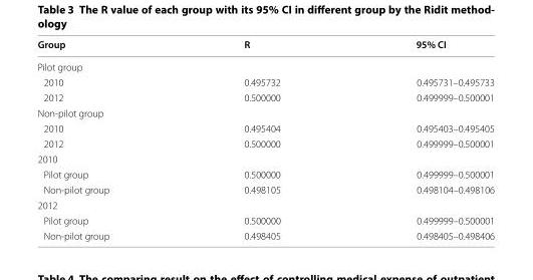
<table><thead><tr><td>Group</td><td>R</td><td>95% CI</td></tr></thead><tbody><tr><td colspan="3">Pilot group</td></tr><tr><td>2010</td><td>0.495732</td><td>0.495731–0.495733</td></tr><tr><td>2012</td><td>0.500000</td><td>0.499999–0.500001</td></tr><tr><td colspan="3">Non‑pilot group</td></tr><tr><td>2010</td><td>0.495404</td><td>0.495403–0.495405</td></tr><tr><td>2012</td><td>0.500000</td><td>0.499999–0.500001</td></tr><tr><td colspan="3">2010</td></tr><tr><td>Pilot group</td><td>0.500000</td><td>0.499999–0.500001</td></tr><tr><td>Non‑pilot group</td><td>0.498105</td><td>0.498104–0.498106</td></tr><tr><td colspan="3">2012</td></tr><tr><td>Pilot group</td><td>0.500000</td><td>0.499999–0.500001</td></tr><tr><td>Non‑pilot group</td><td>0.498405</td><td>0.498405–0.498406</td></tr></tbody></table>